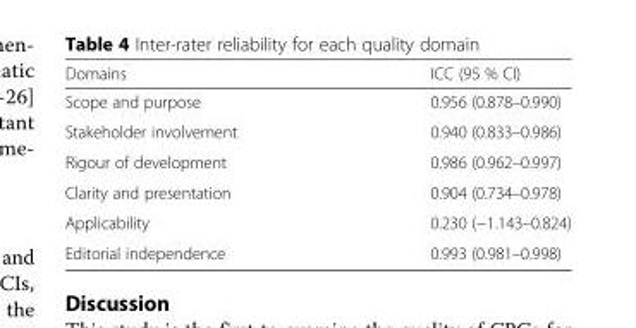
<table><thead><tr><td>Domains</td><td>ICC (95 % CI)</td></tr></thead><tbody><tr><td>Scope and purpose</td><td>0.956 (0.878–0.990)</td></tr><tr><td>Stakeholder involvement</td><td>0.940 (0.833–0.986)</td></tr><tr><td>Rigour of development</td><td>0.986 (0.962–0.997)</td></tr><tr><td>Clarity and presentation</td><td>0.904 (0.734–0.978)</td></tr><tr><td>Applicability</td><td>0.230 (−1.143–0.824)</td></tr><tr><td>Editorial independence</td><td>0.993 (0.981–0.998)</td></tr></tbody></table>